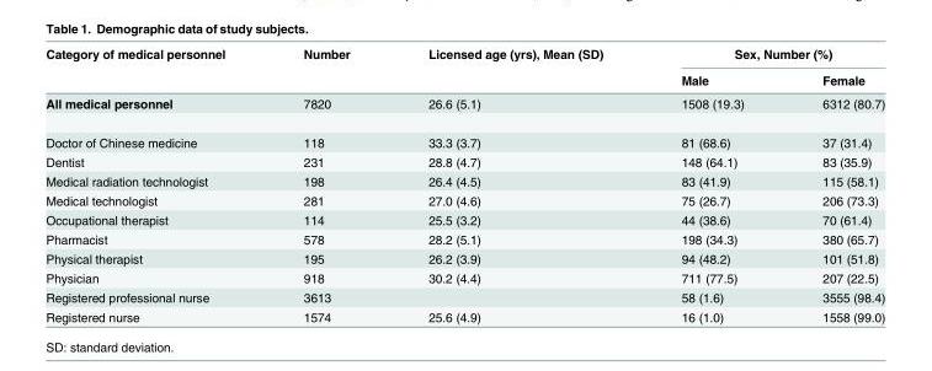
<table><thead><tr><td rowspan="2">Category of medical personnel</td><td rowspan="2">Number</td><td rowspan="2">Licensed age (yrs), Mean (SD)</td><td colspan="2">Sex, Number (%)</td></tr><tr><td>Male</td><td>Female</td></tr></thead><tbody><tr><td>All medical personnel</td><td>7820</td><td>26.6 (5.1)</td><td>1508 (19.3)</td><td>6312 (80.7)</td></tr><tr><td>Doctor of Chinese medicine</td><td>118</td><td>33.3 (3.7)</td><td>81 (68.6)</td><td>37 (31.4)</td></tr><tr><td>Dentist</td><td>231</td><td>28.8 (4.7)</td><td>148 (64.1)</td><td>83 (35.9)</td></tr><tr><td>Medical radiation technologist</td><td>198</td><td>26.4 (4.5)</td><td>83 (41.9)</td><td>115 (58.1)</td></tr><tr><td>Medical technologist</td><td>281</td><td>27.0 (4.6)</td><td>75 (26.7)</td><td>206 (73.3)</td></tr><tr><td>Occupational therapist</td><td>114</td><td>25.5 (3.2)</td><td>44 (38.6)</td><td>70 (61.4)</td></tr><tr><td>Pharmacist</td><td>578</td><td>28.2 (5.1)</td><td>198 (34.3)</td><td>380 (65.7)</td></tr><tr><td>Physical therapist</td><td>195</td><td>26.2 (3.9)</td><td>94 (48.2)</td><td>101 (51.8)</td></tr><tr><td>Physician</td><td>918</td><td>30.2 (4.4)</td><td>711 (77.5)</td><td>207 (22.5)</td></tr><tr><td>Registered professional nurse</td><td>3613</td><td></td><td>58 (1.6)</td><td>3555 (98.4)</td></tr><tr><td>Registered nurse</td><td>1574</td><td>25.6 (4.9)</td><td>16 (1.0)</td><td>1558 (99.0)</td></tr></tbody></table>